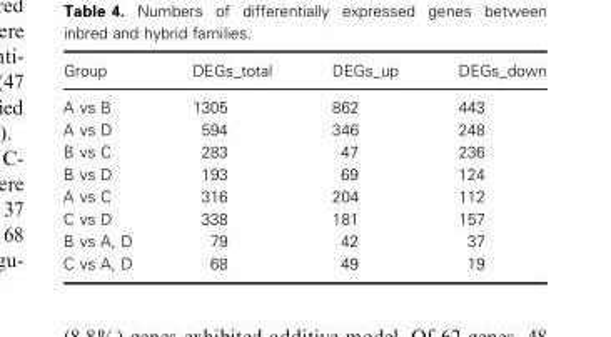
<table><thead><tr><td>Group</td><td>DEGs_total</td><td>DEGs_up</td><td>DEGs_down</td></tr></thead><tbody><tr><td>A vs B</td><td>1305</td><td>862</td><td>443</td></tr><tr><td>A vs D</td><td>594</td><td>346</td><td>248</td></tr><tr><td>B vs C</td><td>283</td><td>47</td><td>236</td></tr><tr><td>B vs D</td><td>193</td><td>69</td><td>124</td></tr><tr><td>A vs C</td><td>316</td><td>204</td><td>112</td></tr><tr><td>C vs D</td><td>338</td><td>181</td><td>157</td></tr><tr><td>B vs A, D</td><td>79</td><td>42</td><td>37</td></tr><tr><td>C vs A, D</td><td>68</td><td>49</td><td>19</td></tr></tbody></table>